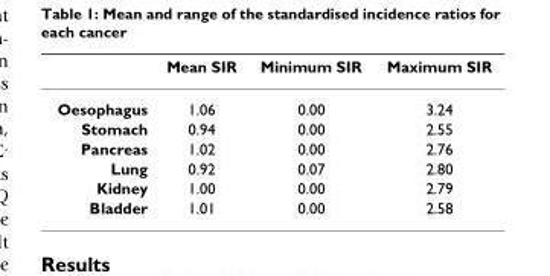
<table><thead><tr><td></td><td>Mean SIR</td><td>Minimum SIR</td><td>Maximum SIR</td></tr></thead><tbody><tr><td>Oesophagus</td><td>1.06</td><td>0.00</td><td>3.24</td></tr><tr><td>Stomach</td><td>0.94</td><td>0.00</td><td>2.55</td></tr><tr><td>Pancreas</td><td>1.02</td><td>0.00</td><td>2.76</td></tr><tr><td>Lung</td><td>0.92</td><td>0.07</td><td>2.80</td></tr><tr><td>Kidney</td><td>1.00</td><td>0.00</td><td>2.79</td></tr><tr><td>Bladder</td><td>1.01</td><td>0.00</td><td>2.58</td></tr></tbody></table>